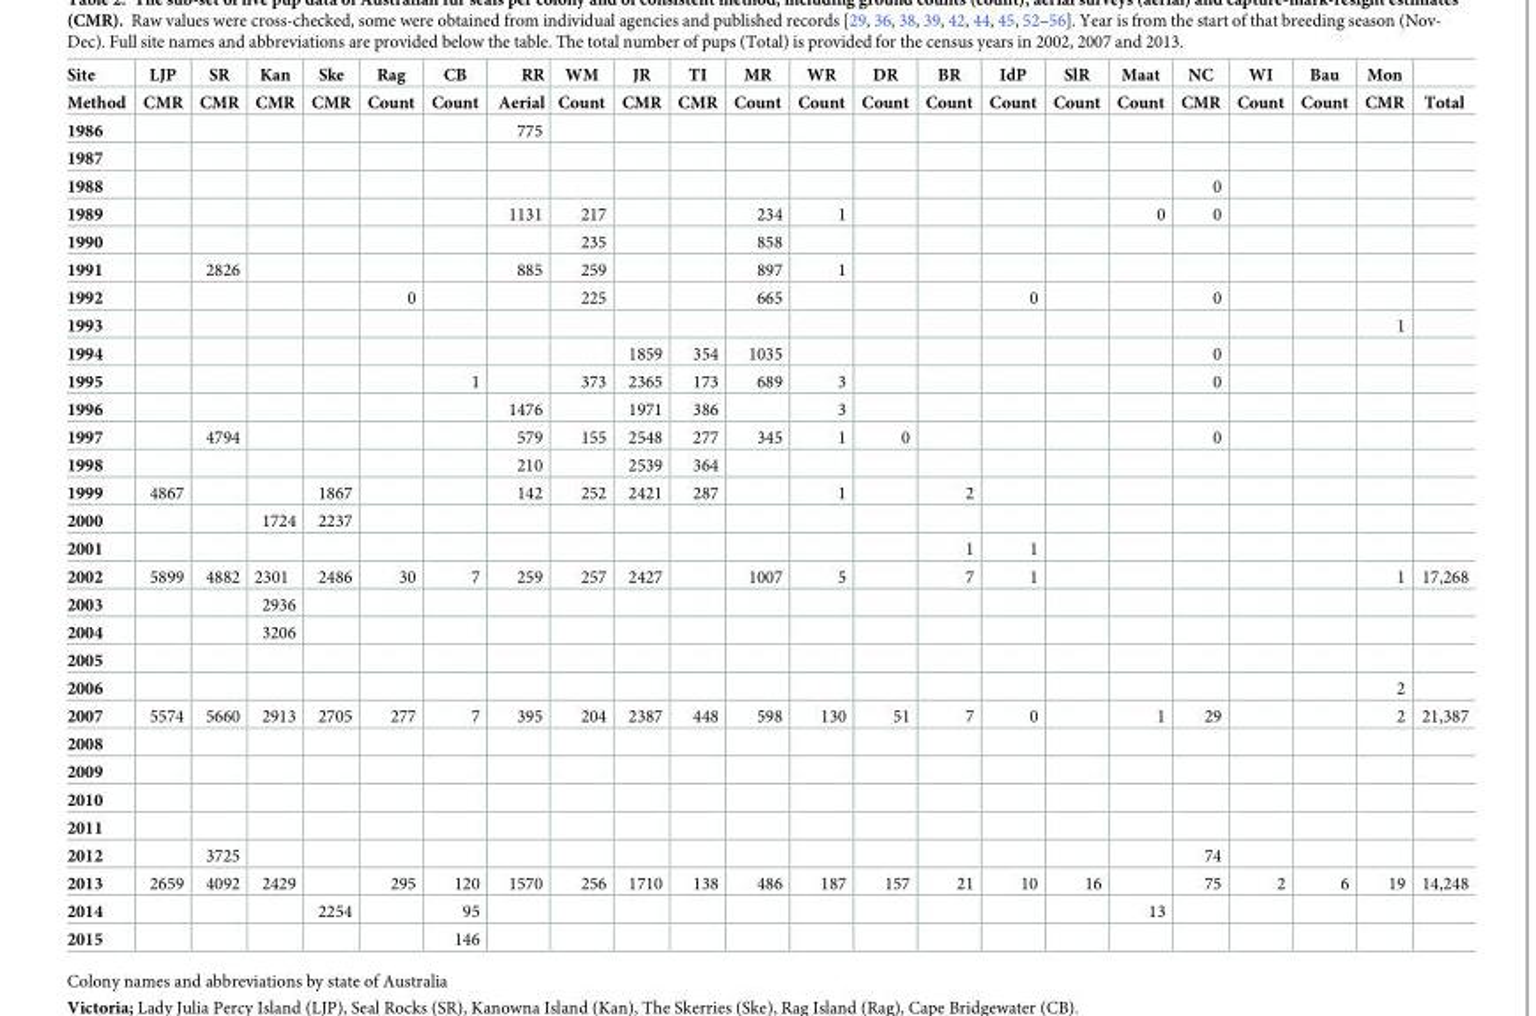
<table><thead><tr><td rowspan="2">Site Method</td><td rowspan="2">LJP CMR</td><td rowspan="2">SR CMR</td><td rowspan="2">Kan CMR</td><td rowspan="2">Ske CMR</td><td rowspan="2">Rag Count</td><td rowspan="2">CB Count</td><td rowspan="2">RR Aerial</td><td rowspan="2">WM Count</td><td rowspan="2">JR CMR</td><td rowspan="2">TI CMR</td><td rowspan="2">MR Count</td><td rowspan="2">WR Count</td><td rowspan="2">DR Count</td><td rowspan="2">BR Count</td><td rowspan="2">IdP Count</td><td rowspan="2">SlR Count</td><td rowspan="2">Maat Count</td><td rowspan="2">NC CMR</td><td rowspan="2">WI Count</td><td rowspan="2">Bau Count</td><td rowspan="2">Mon CMR</td><td rowspan="2">Total</td></tr><tr></tr></thead><tbody><tr><td>1986</td><td></td><td></td><td></td><td></td><td></td><td></td><td>775</td><td></td><td></td><td></td><td></td><td></td><td></td><td></td><td></td><td></td><td></td><td></td><td></td><td></td><td></td><td></td></tr><tr><td colspan="23">1987</td></tr><tr><td>1988</td><td></td><td></td><td></td><td></td><td></td><td></td><td></td><td></td><td></td><td></td><td></td><td></td><td></td><td></td><td></td><td></td><td></td><td>0</td><td></td><td></td><td></td><td></td></tr><tr><td>1989</td><td></td><td></td><td></td><td></td><td></td><td></td><td>1131</td><td>217</td><td></td><td></td><td>234</td><td>1</td><td></td><td></td><td></td><td></td><td>0</td><td>0</td><td></td><td></td><td></td><td></td></tr><tr><td>1990</td><td></td><td></td><td></td><td></td><td></td><td></td><td></td><td>235</td><td></td><td></td><td>858</td><td></td><td></td><td></td><td></td><td></td><td></td><td></td><td></td><td></td><td></td><td></td></tr><tr><td>1991</td><td></td><td>2826</td><td></td><td></td><td></td><td></td><td>885</td><td>259</td><td></td><td></td><td>897</td><td>1</td><td></td><td></td><td></td><td></td><td></td><td></td><td></td><td></td><td></td><td></td></tr><tr><td>1992</td><td></td><td></td><td></td><td></td><td>0</td><td></td><td></td><td>225</td><td></td><td></td><td>665</td><td></td><td></td><td></td><td>0</td><td></td><td></td><td>0</td><td></td><td></td><td></td><td></td></tr><tr><td>1993</td><td></td><td></td><td></td><td></td><td></td><td></td><td></td><td></td><td></td><td></td><td></td><td></td><td></td><td></td><td></td><td></td><td></td><td></td><td></td><td></td><td>1</td><td></td></tr><tr><td>1994</td><td></td><td></td><td></td><td></td><td></td><td></td><td></td><td></td><td>1859</td><td>354</td><td>1035</td><td></td><td></td><td></td><td></td><td></td><td></td><td>0</td><td></td><td></td><td></td><td></td></tr><tr><td>1995</td><td></td><td></td><td></td><td></td><td></td><td>1</td><td></td><td>373</td><td>2365</td><td>173</td><td>689</td><td>3</td><td></td><td></td><td></td><td></td><td></td><td>0</td><td></td><td></td><td></td><td></td></tr><tr><td>1996</td><td></td><td></td><td></td><td></td><td></td><td></td><td>1476</td><td></td><td>1971</td><td>386</td><td></td><td>3</td><td></td><td></td><td></td><td></td><td></td><td></td><td></td><td></td><td></td><td></td></tr><tr><td>1997</td><td></td><td>4794</td><td></td><td></td><td></td><td></td><td>579</td><td>155</td><td>2548</td><td>277</td><td>345</td><td>1</td><td>0</td><td></td><td></td><td></td><td></td><td>0</td><td></td><td></td><td></td><td></td></tr><tr><td>1998</td><td></td><td></td><td></td><td></td><td></td><td></td><td>210</td><td></td><td>2539</td><td>364</td><td></td><td></td><td></td><td></td><td></td><td></td><td></td><td></td><td></td><td></td><td></td><td></td></tr><tr><td>1999</td><td>4867</td><td></td><td></td><td>1867</td><td></td><td></td><td>142</td><td>252</td><td>2421</td><td>287</td><td></td><td>1</td><td></td><td>2</td><td></td><td></td><td></td><td></td><td></td><td></td><td></td><td></td></tr><tr><td>2000</td><td></td><td></td><td>1724</td><td>2237</td><td></td><td></td><td></td><td></td><td></td><td></td><td></td><td></td><td></td><td></td><td></td><td></td><td></td><td></td><td></td><td></td><td></td><td></td></tr><tr><td>2001</td><td></td><td></td><td></td><td></td><td></td><td></td><td></td><td></td><td></td><td></td><td></td><td></td><td></td><td>1</td><td>1</td><td></td><td></td><td></td><td></td><td></td><td></td><td></td></tr><tr><td>2002</td><td>5899</td><td>4882</td><td>2301</td><td>2486</td><td>30</td><td>7</td><td>259</td><td>257</td><td>2427</td><td></td><td>1007</td><td>5</td><td></td><td>7</td><td>1</td><td></td><td></td><td></td><td></td><td></td><td>1</td><td>17,268</td></tr><tr><td>2003</td><td></td><td></td><td>2936</td><td></td><td></td><td></td><td></td><td></td><td></td><td></td><td></td><td></td><td></td><td></td><td></td><td></td><td></td><td></td><td></td><td></td><td></td><td></td></tr><tr><td>2004</td><td></td><td></td><td>3206</td><td></td><td></td><td></td><td></td><td></td><td></td><td></td><td></td><td></td><td></td><td></td><td></td><td></td><td></td><td></td><td></td><td></td><td></td><td></td></tr><tr><td colspan="23">2005</td></tr><tr><td>2006</td><td></td><td></td><td></td><td></td><td></td><td></td><td></td><td></td><td></td><td></td><td></td><td></td><td></td><td></td><td></td><td></td><td></td><td></td><td></td><td></td><td>2</td><td></td></tr><tr><td>2007</td><td>5574</td><td>5660</td><td>2913</td><td>2705</td><td>277</td><td>7</td><td>395</td><td>204</td><td>2387</td><td>448</td><td>598</td><td>130</td><td>51</td><td>7</td><td>0</td><td></td><td>1</td><td>29</td><td></td><td></td><td>2</td><td>21,387</td></tr><tr><td colspan="23">2008</td></tr><tr><td colspan="23">2009</td></tr><tr><td colspan="23">2010</td></tr><tr><td colspan="23">2011</td></tr><tr><td>2012</td><td></td><td>3725</td><td></td><td></td><td></td><td></td><td></td><td></td><td></td><td></td><td></td><td></td><td></td><td></td><td></td><td></td><td></td><td>74</td><td></td><td></td><td></td><td></td></tr><tr><td>2013</td><td>2659</td><td>4092</td><td>2429</td><td></td><td>295</td><td>120</td><td>1570</td><td>256</td><td>1710</td><td>138</td><td>486</td><td>187</td><td>157</td><td>21</td><td>10</td><td>16</td><td></td><td>75</td><td>2</td><td>6</td><td>19</td><td>14,248</td></tr><tr><td>2014</td><td></td><td></td><td></td><td>2254</td><td></td><td>95</td><td></td><td></td><td></td><td></td><td></td><td></td><td></td><td></td><td></td><td></td><td>13</td><td></td><td></td><td></td><td></td><td></td></tr><tr><td>2015</td><td></td><td></td><td></td><td></td><td></td><td>146</td><td></td><td></td><td></td><td></td><td></td><td></td><td></td><td></td><td></td><td></td><td></td><td></td><td></td><td></td><td></td><td></td></tr></tbody></table>